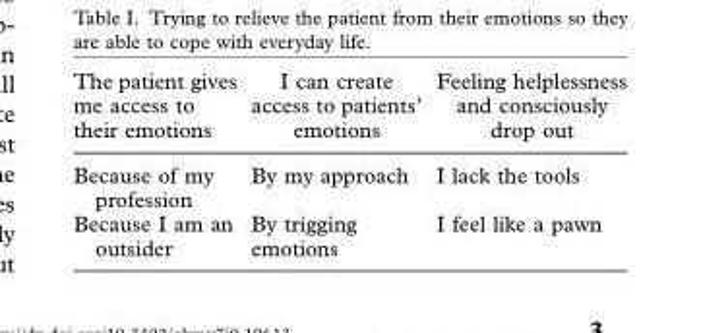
<table><thead><tr><td>The patient gives me access to their emotions</td><td>I can create access to patients’ emotions</td><td>Feeling helplessness and consciously drop out</td></tr></thead><tbody><tr><td>Because of my profession</td><td>By my approach</td><td>I lack the tools</td></tr><tr><td>Because I am an outsider</td><td>By trigging emotions</td><td>I feel like a pawn</td></tr></tbody></table>